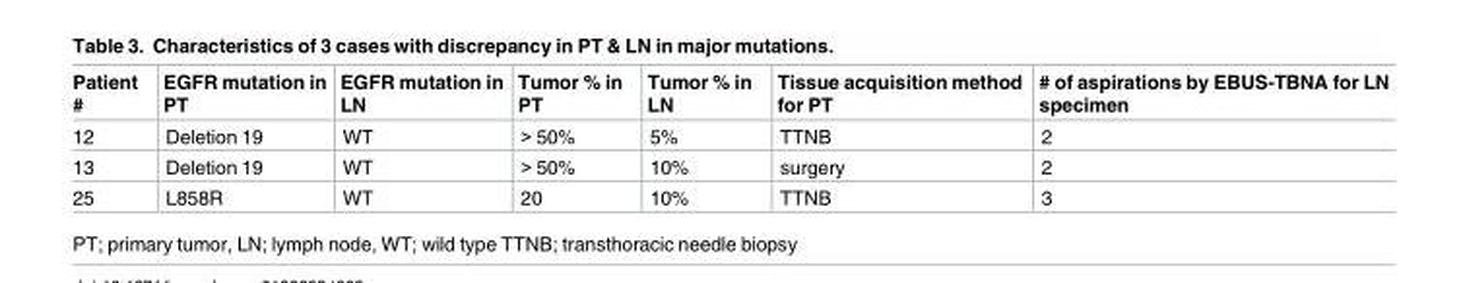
<table><thead><tr><td>Patient #</td><td>EGFR mutation in PT</td><td>EGFR mutation in LN</td><td>Tumor % in PT</td><td>Tumor % in LN</td><td>Tissue acquisition method for PT</td><td># of aspirations by EBUS-TBNA for LN specimen</td></tr></thead><tbody><tr><td>12</td><td>Deletion 19</td><td>WT</td><td>&gt; 50%</td><td>5%</td><td>TTNB</td><td>2</td></tr><tr><td>13</td><td>Deletion 19</td><td>WT</td><td>&gt; 50%</td><td>10%</td><td>surgery</td><td>2</td></tr><tr><td>25</td><td>L858R</td><td>WT</td><td>20</td><td>10%</td><td>TTNB</td><td>3</td></tr></tbody></table>